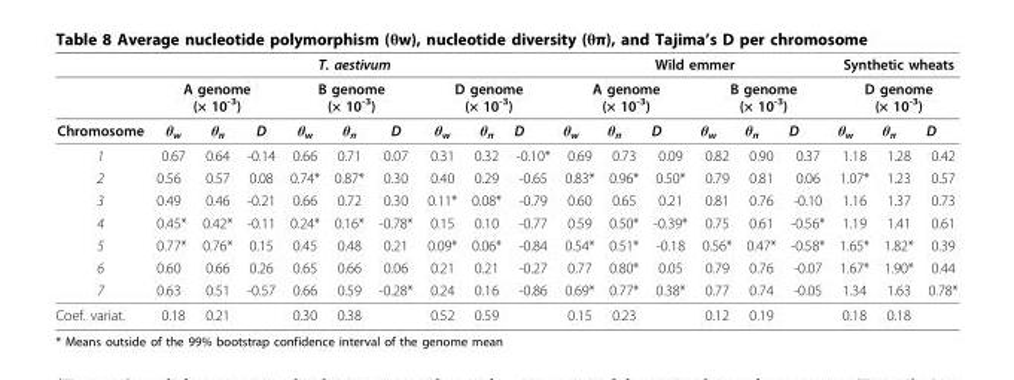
<table><thead><tr><td rowspan="3">Chromosome</td><td colspan="9">T. aestivum</td><td colspan="6">Wild emmer</td><td rowspan="2" colspan="3">Synthetic wheats D genome (× 10-3)</td></tr><tr><td colspan="3">A genome (× 10-3)</td><td colspan="3">B genome (× 10-3)</td><td colspan="3">D genome (× 10-3)</td><td colspan="3">A genome (× 10-3)</td><td colspan="3">B genome (× 10-3)</td></tr><tr><td>θ<sub>w</sub></td><td>θ<sub>π</sub></td><td>D</td><td>θ<sub>w</sub></td><td>θ<sub>π</sub></td><td>D</td><td>θ<sub>w</sub></td><td>θ<sub>π</sub></td><td>D</td><td>θ<sub>w</sub></td><td>θ<sub>π</sub></td><td>D</td><td>θ<sub>w</sub></td><td>θ<sub>π</sub></td><td>D</td><td>θ<sub>w</sub></td><td>θ<sub>π</sub></td><td>D</td></tr></thead><tbody><tr><td>1</td><td>0.67</td><td>0.64</td><td>-0.14</td><td>0.66</td><td>0.71</td><td>0.07</td><td>0.31</td><td>0.32</td><td>-0.10*</td><td>0.69</td><td>0.73</td><td>0.09</td><td>0.82</td><td>0.90</td><td>0.37</td><td>1.18</td><td>1.28</td><td>0.42</td></tr><tr><td>2</td><td>0.56</td><td>0.57</td><td>0.08</td><td>0.74*</td><td>0.87*</td><td>0.30</td><td>0.40</td><td>0.29</td><td>-0.65</td><td>0.83*</td><td>0.96*</td><td>0.50*</td><td>0.79</td><td>0.81</td><td>0.06</td><td>1.07*</td><td>1.23</td><td>0.57</td></tr><tr><td>3</td><td>0.49</td><td>0.46</td><td>-0.21</td><td>0.66</td><td>0.72</td><td>0.30</td><td>0.11*</td><td>0.08*</td><td>-0.79</td><td>0.60</td><td>0.65</td><td>0.21</td><td>0.81</td><td>0.76</td><td>-0.10</td><td>1.16</td><td>1.37</td><td>0.73</td></tr><tr><td>4</td><td>0.45*</td><td>0.42*</td><td>-0.11</td><td>0.24*</td><td>0.16*</td><td>-0.78*</td><td>0.15</td><td>0.10</td><td>-0.77</td><td>0.59</td><td>0.50*</td><td>-0.39*</td><td>0.75</td><td>0.61</td><td>-0.56*</td><td>1.19</td><td>1.41</td><td>0.61</td></tr><tr><td>5</td><td>0.77*</td><td>0.76*</td><td>0.15</td><td>0.45</td><td>0.48</td><td>0.21</td><td>0.09*</td><td>0.06*</td><td>-0.84</td><td>0.54*</td><td>0.51*</td><td>-0.18</td><td>0.56*</td><td>0.47*</td><td>-0.58*</td><td>1.65*</td><td>1.82*</td><td>0.39</td></tr><tr><td>6</td><td>0.60</td><td>0.66</td><td>0.26</td><td>0.65</td><td>0.66</td><td>0.06</td><td>0.21</td><td>0.21</td><td>-0.27</td><td>0.77</td><td>0.80*</td><td>0.05</td><td>0.79</td><td>0.76</td><td>-0.07</td><td>1.67*</td><td>1.90*</td><td>0.44</td></tr><tr><td>7</td><td>0.63</td><td>0.51</td><td>-0.57</td><td>0.66</td><td>0.59</td><td>-0.28*</td><td>0.24</td><td>0.16</td><td>-0.86</td><td>0.69*</td><td>0.77*</td><td>0.38*</td><td>0.77</td><td>0.74</td><td>-0.05</td><td>1.34</td><td>1.63</td><td>0.78*</td></tr><tr><td>Coef. variat.</td><td>0.18</td><td>0.21</td><td></td><td>0.30</td><td>0.38</td><td></td><td>0.52</td><td>0.59</td><td></td><td>0.15</td><td>0.23</td><td></td><td>0.12</td><td>0.19</td><td></td><td>0.18</td><td>0.18</td><td></td></tr></tbody></table>